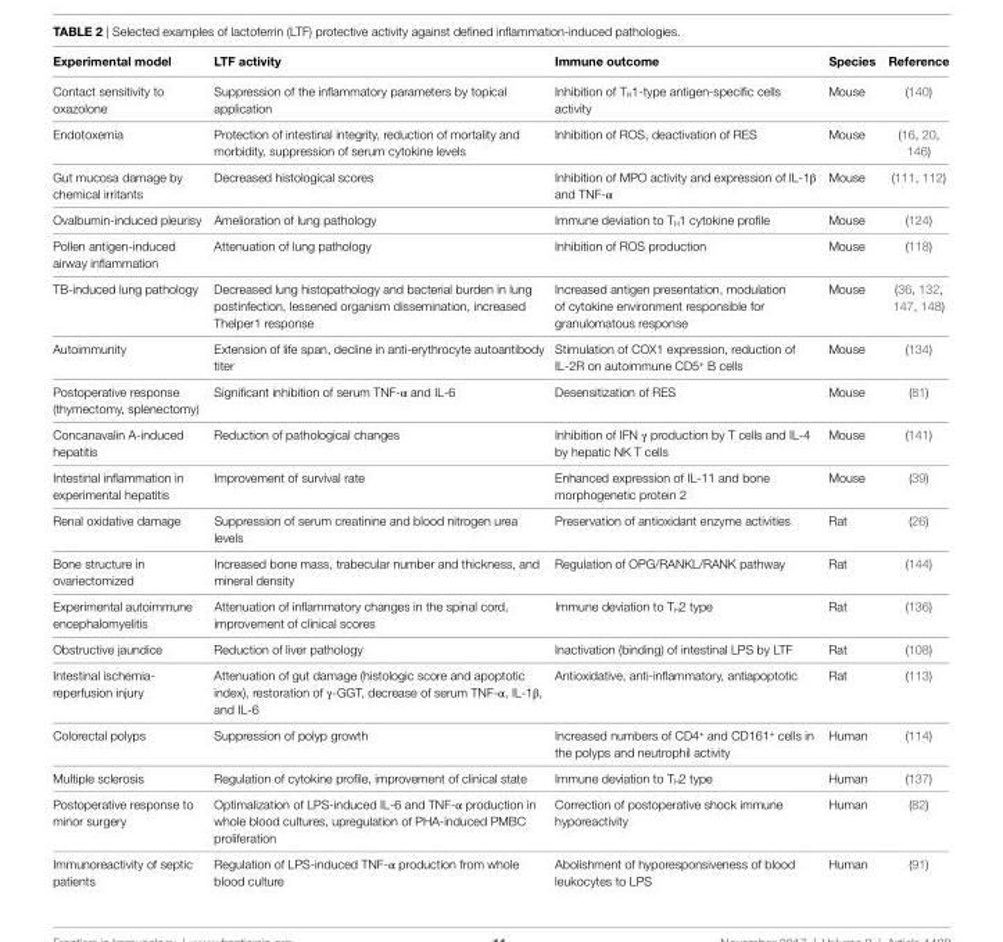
<table><thead><tr><td>experimental model</td><td>LTF activity</td><td>immune outcome</td><td>Species</td><td>Reference</td></tr></thead><tbody><tr><td>Contact sensitivity to oxazolone</td><td>Suppression of the inflammatory parameters by topical application</td><td>Inhibition of T<sub>H</sub>1-type antigen-specific cells activity</td><td>Mouse</td><td>(140)</td></tr><tr><td>Endotoxemia</td><td>Protection of intestinal integrity, reduction of mortality and morbidity, suppression of serum cytokine levels</td><td>Inhibition of ROS, deactivation of RES</td><td>Mouse</td><td>(16, 20, 146)</td></tr><tr><td>Gut mucosa damage by chemical irritants</td><td>Decreased histological scores</td><td>Inhibition of MPO activity and expression of IL-1β and TNF-α</td><td>Mouse</td><td>(111, 112)</td></tr><tr><td>Ovalbumin-induced pleurisy</td><td>Amelioration of lung pathology</td><td>Immune deviation to T<sub>H</sub>1 cytokine profile</td><td>Mouse</td><td>(124)</td></tr><tr><td>Pollen antigen-induced airway inflammation</td><td>Attenuation of lung pathology</td><td>Inhibition of ROS production</td><td>Mouse</td><td>(118)</td></tr><tr><td>TB-induced lung pathology</td><td>Decreased lung histopathology and bacterial burden in lung postinfection, lessened organism dissemination, increased Thelper1 response</td><td>Increased antigen presentation, modulation of cytokine environment responsible for granulomatous response</td><td>Mouse</td><td>(36, 132, 147, 148)</td></tr><tr><td>Autoimmunity</td><td>Extension of life span, decline in anti-erythrocyte autoantibody titer</td><td>Stimulation of COX1 expression, reduction of IL-2R on autoimmune CD5<sup>+</sup> B cells</td><td>Mouse</td><td>(134)</td></tr><tr><td>Postoperative response (thymectomy, splenectomy)</td><td>Significant inhibition of serum TNF-α and IL-6</td><td>Desensitization of RES</td><td>Mouse</td><td>(81)</td></tr><tr><td>Concanavalin A-induced hepatitis</td><td>Reduction of pathological changes</td><td>Inhibition of IFN γ production by T cells and IL-4 by hepatic NK T cells</td><td>Mouse</td><td>(141)</td></tr><tr><td>Intestinal inflammation in experimental hepatitis</td><td>Improvement of survival rate</td><td>Enhanced expression of IL-11 and bone morphogenetic protein 2</td><td>Mouse</td><td>(39)</td></tr><tr><td>Renal oxidative damage</td><td>Suppression of serum creatinine and blood nitrogen urea levels</td><td>Preservation of antioxidant enzyme activities</td><td>Rat</td><td>(26)</td></tr><tr><td>Bone structure in ovariectomized</td><td>Increased bone mass, trabecular number and thickness, and mineral density</td><td>Regulation of OPG/RANKL/RANK pathway</td><td>Rat</td><td>(144)</td></tr><tr><td>Experimental autoimmune encephalomyelitis</td><td>Attenuation of inflammatory changes in the spinal cord, improvement of clinical scores</td><td>Immune deviation to T<sub>H</sub>2 type</td><td>Rat</td><td>(136)</td></tr><tr><td>Obstructive jaundice</td><td>Reduction of liver pathology</td><td>Inactivation (binding) of intestinal LPS by LTF</td><td>Rat</td><td>(108)</td></tr><tr><td>Intestinal ischemia- reperfusion injury</td><td>Attenuation of gut damage (histologic score and apoptotic index), restoration of γ-GGT, decrease of serum TNF-α, IL-1β, and IL-6</td><td>Antioxidative, anti-inflammatory, antiapoptotic</td><td>Rat</td><td>(113)</td></tr><tr><td>Colorectal polyps</td><td>Suppression of polyp growth</td><td>Increased numbers of CD4<sup>+</sup> and CD161<sup>+</sup> cells in the polyps and neutrophil activity</td><td>Human</td><td>(114)</td></tr><tr><td>Multiple sclerosis</td><td>Regulation of cytokine profile, improvement of clinical state</td><td>Immune deviation to T<sub>H</sub>2 type</td><td>Human</td><td>(137)</td></tr><tr><td>Postoperative response to minor surgery</td><td>Optimalization of LPS-induced IL-6 and TNF-α production in whole blood cultures, upregulation of PHA-induced PMBC proliferation</td><td>Correction of postoperative shock immune hyporeactivity</td><td>Human</td><td>(82)</td></tr><tr><td>Immunoreactivity of septic patients</td><td>Regulation of LPS-induced TNF-α production from whole blood culture</td><td>Abolishment of hyporesponsiveness of blood leukocytes to LPS</td><td>Human</td><td>(91)</td></tr></tbody></table>